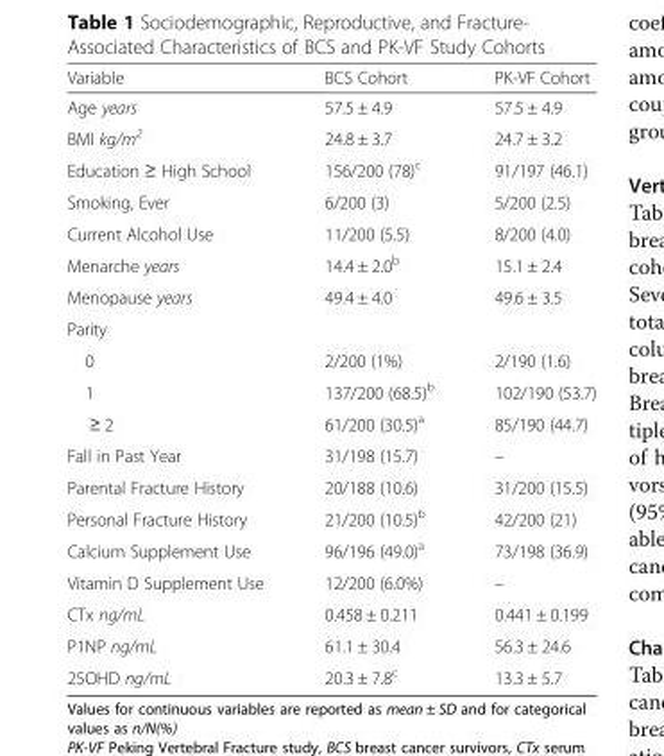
<table><thead><tr><td>Variable</td><td>BCS Cohort</td><td>PK-VF Cohort</td></tr></thead><tbody><tr><td>Age years</td><td>57.5 ± 4.9</td><td>57.5 ± 4.9</td></tr><tr><td>BMI kg/m<sup>2</sup></td><td>24.8 ± 3.7</td><td>24.7 ± 3.2</td></tr><tr><td>Education ≥ High School</td><td>156/200 (78)<sup>c</sup></td><td>91/197 (46.1)</td></tr><tr><td>Smoking, Ever</td><td>6/200 (3)</td><td>5/200 (2.5)</td></tr><tr><td>Current Alcohol Use</td><td>11/200 (5.5)</td><td>8/200 (4.0)</td></tr><tr><td>Menarche years</td><td>14.4 ± 2.0<sup>b</sup></td><td>15.1 ± 2.4</td></tr><tr><td>Menopause years</td><td>49.4 ± 4.0</td><td>49.6 ± 3.5</td></tr><tr><td colspan="3">Parity</td></tr><tr><td>0</td><td>2/200 (1%)</td><td>2/190 (1.6)</td></tr><tr><td>1</td><td>137/200 (68.5)<sup>b</sup></td><td>102/190 (53.7)</td></tr><tr><td>≥ 2</td><td>61/200 (30.5)<sup>a</sup></td><td>85/190 (44.7)</td></tr><tr><td>Fall in Past Year</td><td>31/198 (15.7)</td><td>–</td></tr><tr><td>Parental Fracture History</td><td>20/188 (10.6)</td><td>31/200 (15.5)</td></tr><tr><td>Personal Fracture History</td><td>21/200 (10.5)<sup>b</sup></td><td>42/200 (21)</td></tr><tr><td>Calcium Supplement Use</td><td>96/196 (49.0)<sup>a</sup></td><td>73/198 (36.9)</td></tr><tr><td>Vitamin D Supplement Use</td><td>12/200 (6.0%)</td><td>–</td></tr><tr><td>CTx ng/mL</td><td>0.458 ± 0.211</td><td>0.441 ± 0.199</td></tr><tr><td>P1NP ng/mL</td><td>61.1 ± 30.4</td><td>56.3 ± 24.6</td></tr><tr><td>25OHD ng/mL</td><td>20.3 ± 7.8<sup>c</sup></td><td>13.3 ± 5.7</td></tr></tbody></table>